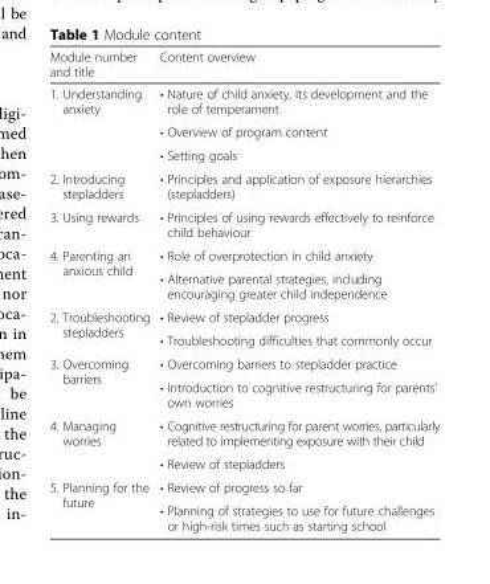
<table><thead><tr><td>Module number and title</td><td>Content overview</td></tr></thead><tbody><tr><td rowspan="3">1. Understanding anxiety</td><td>• Nature of child anxiety, its development and the role of temperament</td></tr><tr><td>• Overview of program content</td></tr><tr><td>• Setting goals</td></tr><tr><td>2. Introducing stepladders</td><td>• Principles and application of exposure hierarchies (stepladders)</td></tr><tr><td>3. Using rewards</td><td>• Principles of using rewards effectively to reinforce child behaviour</td></tr><tr><td rowspan="2">4. Parenting an anxious child</td><td>• Role of overprotection in child anxiety</td></tr><tr><td>• Alternative parental strategies, including encouraging greater child independence</td></tr><tr><td rowspan="2">2. Troubleshooting stepladders</td><td>• Review of stepladder progress</td></tr><tr><td>• Troubleshooting difficulties that commonly occur</td></tr><tr><td rowspan="2">3. Overcoming barriers</td><td>• Overcoming barriers to stepladder practice</td></tr><tr><td>• Introduction to cognitive restructuring for parents’ own worries</td></tr><tr><td rowspan="2">4. Managing worries</td><td>• Cognitive restructuring for parent worries, particularly related to implementing exposure with their child</td></tr><tr><td>• Review of stepladders</td></tr><tr><td rowspan="2">5. Planning for the future</td><td>• Review of progress so far</td></tr><tr><td>• Planning of strategies to use for future challenges or high-risk times such as starting school</td></tr></tbody></table>